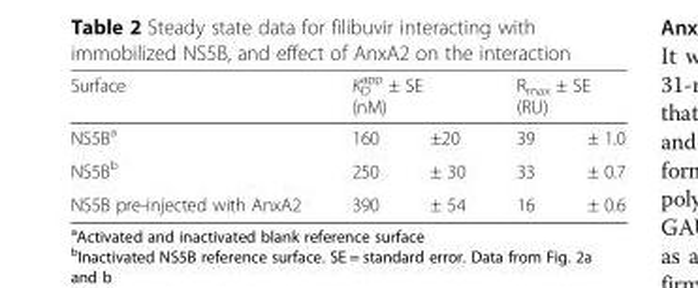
<table><thead><tr><td rowspan="2">Surface NS5B<sup>a</sup></td><td colspan="2">K<sub>D</sub> <sup>app</sup> ± SE (nM)</td><td colspan="2">R<sub>max</sub> ± SE (RU)</td></tr><tr><td>160</td><td>±20</td><td>39</td><td>± 1.0</td></tr></thead><tbody><tr><td>NS5B<sup>b</sup></td><td>250</td><td>± 30</td><td>33</td><td>± 0.7</td></tr><tr><td>NS5B pre-injected with AnxA2</td><td>390</td><td>± 54</td><td>16</td><td>± 0.6</td></tr></tbody></table>